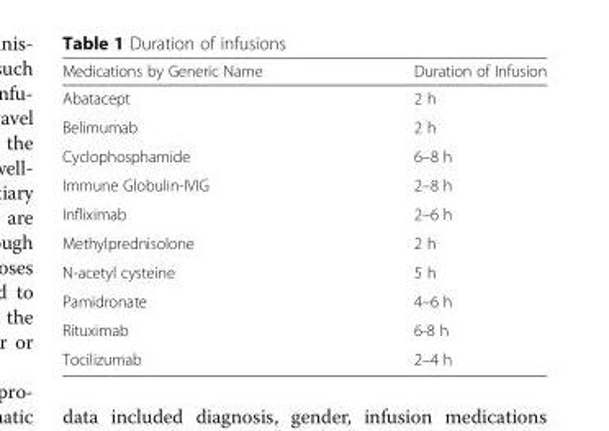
<table><thead><tr><td>Medications by Generic Name</td><td>Duration of Infusion</td></tr></thead><tbody><tr><td>Abatacept</td><td>2 h</td></tr><tr><td>Belimumab</td><td>2 h</td></tr><tr><td>Cyclophosphamide</td><td>6–8 h</td></tr><tr><td>Immune Globulin-IVIG</td><td>2–8 h</td></tr><tr><td>Infliximab</td><td>2–6 h</td></tr><tr><td>Methylprednisolone</td><td>2 h</td></tr><tr><td>N-acetyl cysteine</td><td>5 h</td></tr><tr><td>Pamidronate</td><td>4–6 h</td></tr><tr><td>Rituximab</td><td>6-8 h</td></tr><tr><td>Tocilizumab</td><td>2–4 h</td></tr></tbody></table>